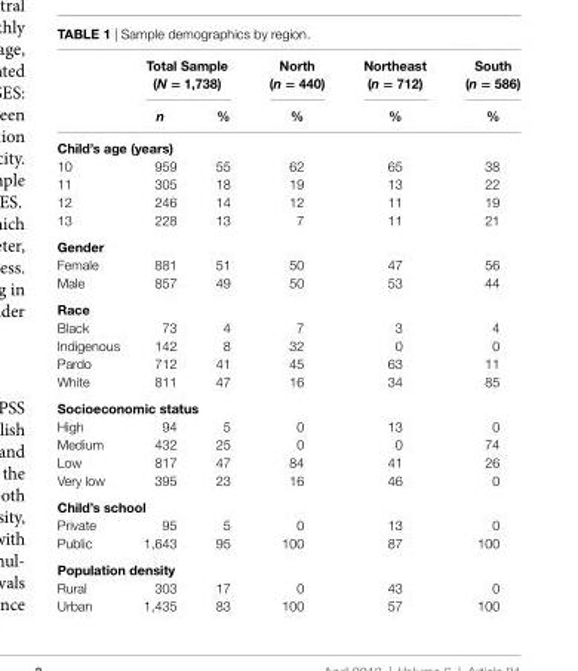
<table><thead><tr><td rowspan="2"></td><td colspan="2">Total sample (N = 1,738)</td><td rowspan="2">north (n = 440) %</td><td rowspan="2">northeast (n = 712) %</td><td rowspan="2">south (n = 586) %</td></tr><tr><td>n</td><td>%</td></tr></thead><tbody><tr><td colspan="6">child’s age (years)</td></tr><tr><td>10</td><td>959</td><td>55</td><td>62</td><td>65</td><td>38</td></tr><tr><td>11</td><td>305</td><td>18</td><td>19</td><td>13</td><td>22</td></tr><tr><td>12</td><td>246</td><td>14</td><td>12</td><td>11</td><td>19</td></tr><tr><td>13</td><td>228</td><td>13</td><td>7</td><td>11</td><td>21</td></tr><tr><td colspan="6">gender</td></tr><tr><td>Female</td><td>881</td><td>51</td><td>50</td><td>47</td><td>56</td></tr><tr><td>Male</td><td>857</td><td>49</td><td>50</td><td>53</td><td>44</td></tr><tr><td colspan="6">race</td></tr><tr><td>Black</td><td>73</td><td>4</td><td>7</td><td>3</td><td>4</td></tr><tr><td>Indigenous</td><td>142</td><td>8</td><td>32</td><td>0</td><td>0</td></tr><tr><td>Pardo</td><td>712</td><td>41</td><td>45</td><td>63</td><td>11</td></tr><tr><td>White</td><td>811</td><td>47</td><td>16</td><td>34</td><td>85</td></tr><tr><td colspan="6">socioeconomic status</td></tr><tr><td>High</td><td>94</td><td>5</td><td>0</td><td>13</td><td>0</td></tr><tr><td>Medium</td><td>432</td><td>25</td><td>0</td><td>0</td><td>74</td></tr><tr><td>Low</td><td>817</td><td>47</td><td>84</td><td>41</td><td>26</td></tr><tr><td>Very low</td><td>395</td><td>23</td><td>16</td><td>46</td><td>0</td></tr><tr><td colspan="6">child’s school</td></tr><tr><td>Private</td><td>95</td><td>5</td><td>0</td><td>13</td><td>0</td></tr><tr><td>Public</td><td>1,643</td><td>95</td><td>100</td><td>87</td><td>100</td></tr><tr><td colspan="6">Population density</td></tr><tr><td>Rural</td><td>303</td><td>17</td><td>0</td><td>43</td><td>0</td></tr><tr><td>Urban</td><td>1,435</td><td>83</td><td>100</td><td>57</td><td>100</td></tr></tbody></table>